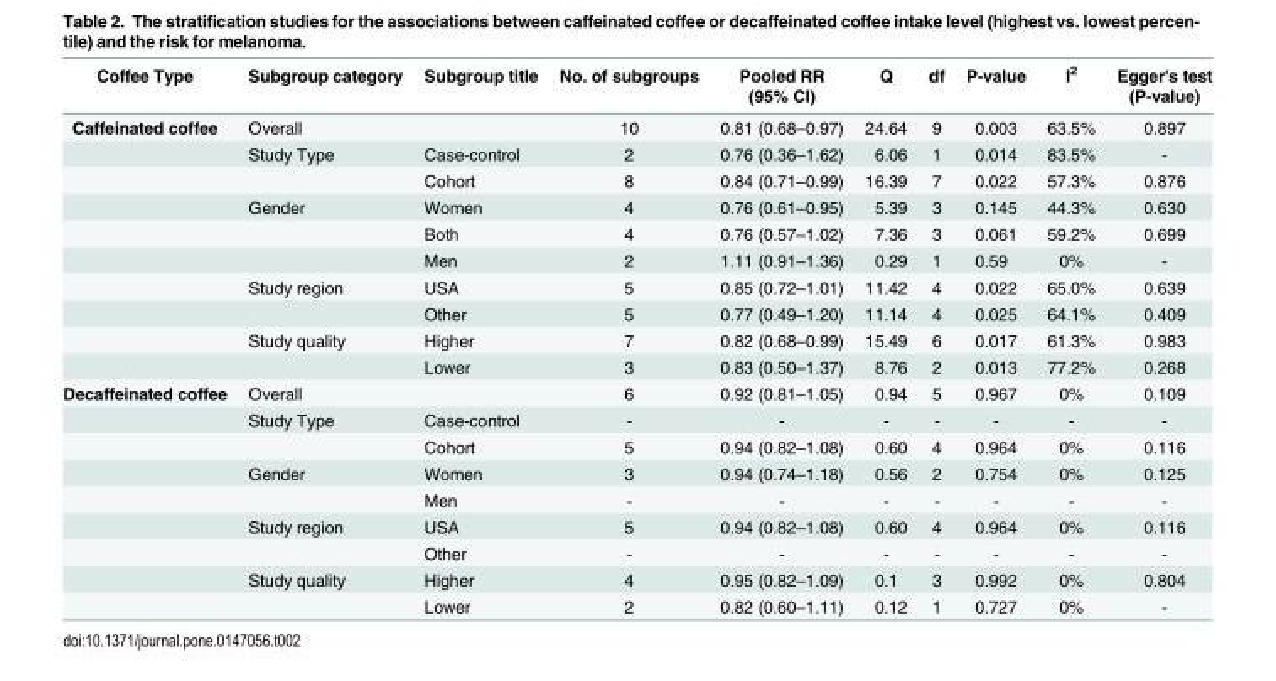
<table><thead><tr><td>Coffee Type</td><td>Subgroup category</td><td>Subgroup title</td><td>No. of subgroups</td><td>Pooled RR (95% CI)</td><td>Q</td><td>df</td><td>P-value</td><td>I<sup>2</sup></td><td>Egger&#x27;s test (P-value)</td></tr></thead><tbody><tr><td rowspan="10">Caffeinated coffee</td><td>Overall</td><td></td><td>10</td><td>0.81 (0.68–0.97)</td><td>24.64</td><td>9</td><td>0.003</td><td>63.5%</td><td>0.897</td></tr><tr><td>Study Type</td><td>Case-control</td><td>2</td><td>0.76 (0.36–1.62)</td><td>6.06</td><td>1</td><td>0.014</td><td>83.5%</td><td>-</td></tr><tr><td></td><td>Cohort</td><td>8</td><td>0.84 (0.71–0.99)</td><td>16.39</td><td>7</td><td>0.022</td><td>57.3%</td><td>0.876</td></tr><tr><td>Gender</td><td>Women</td><td>4</td><td>0.76 (0.61–0.95)</td><td>5.39</td><td>3</td><td>0.145</td><td>44.3%</td><td>0.630</td></tr><tr><td></td><td>Both</td><td>4</td><td>0.76 (0.57–1.02)</td><td>7.36</td><td>3</td><td>0.061</td><td>59.2%</td><td>0.699</td></tr><tr><td></td><td>Men</td><td>2</td><td>1.11 (0.91–1.36)</td><td>0.29</td><td>1</td><td>0.59</td><td>0%</td><td>-</td></tr><tr><td>Study region</td><td>USA</td><td>5</td><td>0.85 (0.72–1.01)</td><td>11.42</td><td>4</td><td>0.022</td><td>65.0%</td><td>0.639</td></tr><tr><td></td><td>Other</td><td>5</td><td>0.77 (0.49–1.20)</td><td>11.14</td><td>4</td><td>0.025</td><td>64.1%</td><td>0.409</td></tr><tr><td>Study quality</td><td>Higher</td><td>7</td><td>0.82 (0.68–0.99)</td><td>15.49</td><td>6</td><td>0.017</td><td>61.3%</td><td>0.983</td></tr><tr><td></td><td>Lower</td><td>3</td><td>0.83 (0.50–1.37)</td><td>8.76</td><td>2</td><td>0.013</td><td>77.2%</td><td>0.268</td></tr><tr><td rowspan="9">Decaffeinated coffee</td><td>Overall</td><td></td><td>6</td><td>0.92 (0.81–1.05)</td><td>0.94</td><td>5</td><td>0.967</td><td>0%</td><td>0.109</td></tr><tr><td>Study Type</td><td>Case-control</td><td>-</td><td>-</td><td>-</td><td>-</td><td>-</td><td>-</td><td>-</td></tr><tr><td></td><td>Cohort</td><td>5</td><td>0.94 (0.82–1.08)</td><td>0.60</td><td>4</td><td>0.964</td><td>0%</td><td>0.116</td></tr><tr><td>Gender</td><td>Women</td><td>3</td><td>0.94 (0.74–1.18)</td><td>0.56</td><td>2</td><td>0.754</td><td>0%</td><td>0.125</td></tr><tr><td></td><td>Men</td><td>-</td><td>-</td><td>-</td><td>-</td><td>-</td><td>-</td><td>-</td></tr><tr><td>Study region</td><td>USA</td><td>5</td><td>0.94 (0.82–1.08)</td><td>0.60</td><td>4</td><td>0.964</td><td>0%</td><td>0.116</td></tr><tr><td></td><td>Other</td><td>-</td><td>-</td><td>-</td><td>-</td><td>-</td><td>-</td><td>-</td></tr><tr><td>Study quality</td><td>Higher</td><td>4</td><td>0.95 (0.82–1.09)</td><td>0.1</td><td>3</td><td>0.992</td><td>0%</td><td>0.804</td></tr><tr><td></td><td>Lower</td><td>2</td><td>0.82 (0.60–1.11)</td><td>0.12</td><td>1</td><td>0.727</td><td>0%</td><td>-</td></tr></tbody></table>